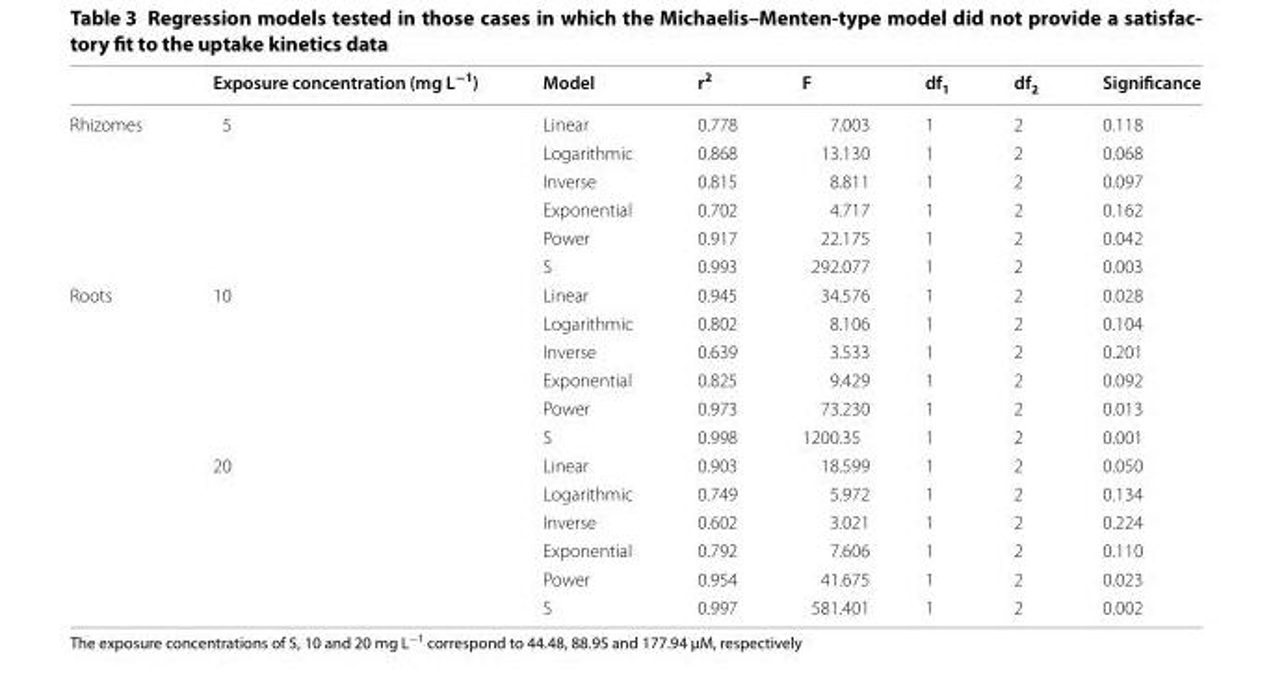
<table><thead><tr><td></td><td>Exposure concentration (mg L<sup>−1</sup>)</td><td>Model</td><td>r<sup>2</sup></td><td>F</td><td>df<sub>1</sub></td><td>df<sub>2</sub></td><td>Significance</td></tr></thead><tbody><tr><td rowspan="6">Rhizomes</td><td rowspan="6">5</td><td>Linear</td><td>0.778</td><td>7.003</td><td>1</td><td>2</td><td>0.118</td></tr><tr><td>Logarithmic</td><td>0.868</td><td>13.130</td><td>1</td><td>2</td><td>0.068</td></tr><tr><td>Inverse</td><td>0.815</td><td>8.811</td><td>1</td><td>2</td><td>0.097</td></tr><tr><td>Exponential</td><td>0.702</td><td>4.717</td><td>1</td><td>2</td><td>0.162</td></tr><tr><td>Power</td><td>0.917</td><td>22.175</td><td>1</td><td>2</td><td>0.042</td></tr><tr><td>S</td><td>0.993</td><td>292.077</td><td>1</td><td>2</td><td>0.003</td></tr><tr><td rowspan="12">Roots</td><td rowspan="6">10</td><td>Linear</td><td>0.945</td><td>34.576</td><td>1</td><td>2</td><td>0.028</td></tr><tr><td>Logarithmic</td><td>0.802</td><td>8.106</td><td>1</td><td>2</td><td>0.104</td></tr><tr><td>Inverse</td><td>0.639</td><td>3.533</td><td>1</td><td>2</td><td>0.201</td></tr><tr><td>Exponential</td><td>0.825</td><td>9.429</td><td>1</td><td>2</td><td>0.092</td></tr><tr><td>Power</td><td>0.973</td><td>73.230</td><td>1</td><td>2</td><td>0.013</td></tr><tr><td>S</td><td>0.998</td><td>1200.35</td><td>1</td><td>2</td><td>0.001</td></tr><tr><td rowspan="6">20</td><td>Linear</td><td>0.903</td><td>18.599</td><td>1</td><td>2</td><td>0.050</td></tr><tr><td>Logarithmic</td><td>0.749</td><td>5.972</td><td>1</td><td>2</td><td>0.134</td></tr><tr><td>Inverse</td><td>0.602</td><td>3.021</td><td>1</td><td>2</td><td>0.224</td></tr><tr><td>Exponential</td><td>0.792</td><td>7.606</td><td>1</td><td>2</td><td>0.110</td></tr><tr><td>Power</td><td>0.954</td><td>41.675</td><td>1</td><td>2</td><td>0.023</td></tr><tr><td>S</td><td>0.997</td><td>581.401</td><td>1</td><td>2</td><td>0.002</td></tr></tbody></table>